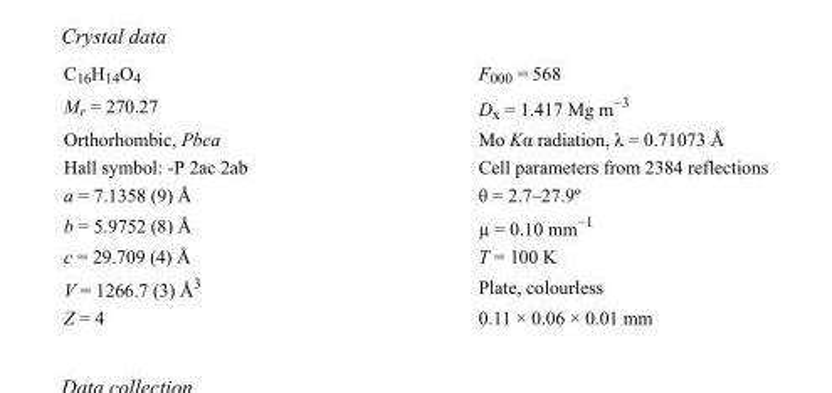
<table><tbody><tr><td>C<sub>16</sub>H<sub>14</sub>O<sub>4</sub></td><td>F000 = 568</td></tr><tr><td>M<sub>r</sub> = 270.27</td><td>D<sub>x</sub> = 1.417 Mg m<sup>−3</sup></td></tr><tr><td>Orthorhombic, Pbca</td><td>Mo Kα radiation, λ = 0.71073 Å</td></tr><tr><td>Hall symbol: -P 2ac 2ab</td><td>Cell parameters from 2384 reflections</td></tr><tr><td>a = 7.1358 (9) Å</td><td>θ = 2.7–27.9º</td></tr><tr><td>b = 5.9752 (8) Å</td><td>µ = 0.10 mm<sup>−1</sup></td></tr><tr><td>c = 29.709 (4) Å</td><td>T = 100 K</td></tr><tr><td>V = 1266.7 (3) Å<sup>3</sup></td><td>Plate, colourless</td></tr><tr><td>Z = 4</td><td>0.11 × 0.06 × 0.01 mm</td></tr></tbody></table>